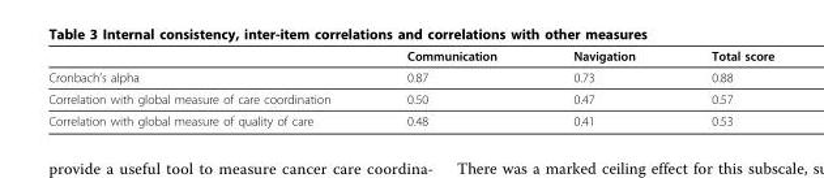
<table><thead><tr><td></td><td>Communication</td><td>Navigation</td><td>Total score</td></tr></thead><tbody><tr><td>Cronbach’s alpha</td><td>0.87</td><td>0.73</td><td>0.88</td></tr><tr><td>Correlation with global measure of care coordination</td><td>0.50</td><td>0.47</td><td>0.57</td></tr><tr><td>Correlation with global measure of quality of care</td><td>0.48</td><td>0.41</td><td>0.53</td></tr></tbody></table>